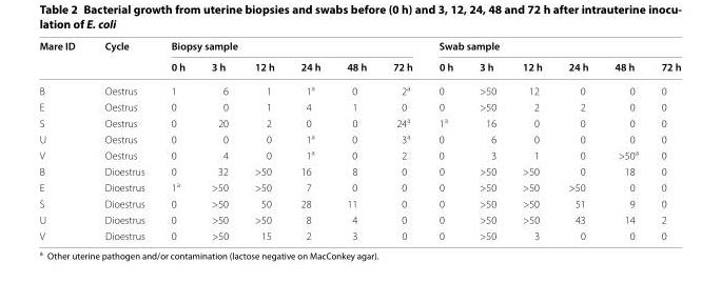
<table><thead><tr><td rowspan="2">Mare ID</td><td rowspan="2">Cycle</td><td colspan="6">Biopsy sample</td><td colspan="6">Swab sample</td></tr><tr><td>0 h</td><td>3 h</td><td>12 h</td><td>24 h</td><td>48 h</td><td>72 h</td><td>0 h</td><td>3 h</td><td>12 h</td><td>24 h</td><td>48 h</td><td>72 h</td></tr></thead><tbody><tr><td>B</td><td>Oestrus</td><td>1</td><td>6</td><td>1</td><td>1<sup>a</sup></td><td>0</td><td>2<sup>a</sup></td><td>0</td><td>&gt;50</td><td>12</td><td>0</td><td>0</td><td>0</td></tr><tr><td>E</td><td>Oestrus</td><td>0</td><td>0</td><td>1</td><td>4</td><td>1</td><td>0</td><td>0</td><td>&gt;50</td><td>2</td><td>2</td><td>0</td><td>0</td></tr><tr><td>S</td><td>Oestrus</td><td>0</td><td>20</td><td>2</td><td>0</td><td>0</td><td>24<sup>a</sup></td><td>1<sup>a</sup></td><td>16</td><td>0</td><td>0</td><td>0</td><td>0</td></tr><tr><td>U</td><td>Oestrus</td><td>0</td><td>0</td><td>0</td><td>1<sup>a</sup></td><td>0</td><td>3<sup>a</sup></td><td>0</td><td>6</td><td>0</td><td>0</td><td>0</td><td>0</td></tr><tr><td>V</td><td>Oestrus</td><td>0</td><td>4</td><td>0</td><td>1<sup>a</sup></td><td>0</td><td>2</td><td>0</td><td>3</td><td>1</td><td>0</td><td>&gt;50<sup>a</sup></td><td>0</td></tr><tr><td>B</td><td>Dioestrus</td><td>0</td><td>32</td><td>&gt;50</td><td>16</td><td>8</td><td>0</td><td>0</td><td>&gt;50</td><td>&gt;50</td><td>0</td><td>18</td><td>0</td></tr><tr><td>E</td><td>Dioestrus</td><td>1<sup>a</sup></td><td>&gt;50</td><td>&gt;50</td><td>7</td><td>0</td><td>0</td><td>0</td><td>&gt;50</td><td>&gt;50</td><td>&gt;50</td><td>0</td><td>0</td></tr><tr><td>S</td><td>Dioestrus</td><td>0</td><td>&gt;50</td><td>50</td><td>28</td><td>11</td><td>0</td><td>0</td><td>&gt;50</td><td>&gt;50</td><td>51</td><td>9</td><td>0</td></tr><tr><td>U</td><td>Dioestrus</td><td>0</td><td>&gt;50</td><td>&gt;50</td><td>8</td><td>4</td><td>0</td><td>0</td><td>&gt;50</td><td>&gt;50</td><td>43</td><td>14</td><td>2</td></tr><tr><td>V</td><td>Dioestrus</td><td>0</td><td>&gt;50</td><td>15</td><td>2</td><td>3</td><td>0</td><td>0</td><td>&gt;50</td><td>3</td><td>0</td><td>0</td><td>0</td></tr></tbody></table>